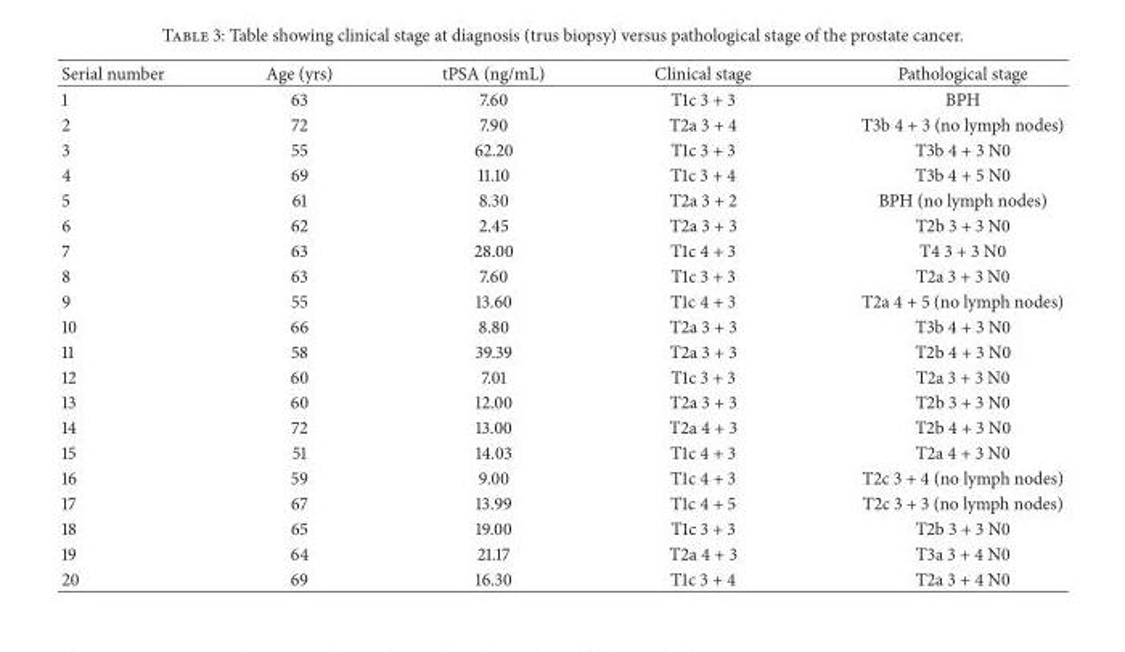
<table><thead><tr><td>Serial number</td><td>Age (yrs)</td><td>tPSA (ng/mL)</td><td>Clinical stage</td><td>Pathological stage</td></tr></thead><tbody><tr><td>1</td><td>63</td><td>7.60</td><td>T1c 3 + 3</td><td>BPH</td></tr><tr><td>2</td><td>72</td><td>7.90</td><td>T2a 3 + 4</td><td>T3b 4 + 3 (no lymph nodes)</td></tr><tr><td>3</td><td>55</td><td>62.20</td><td>T1c 3 + 3</td><td>T3b 4 + 3 N0</td></tr><tr><td>4</td><td>69</td><td>11.10</td><td>T1c 3 + 4</td><td>T3b 4 + 5 N0</td></tr><tr><td>5</td><td>61</td><td>8.30</td><td>T2a 3 + 2</td><td>BPH (no lymph nodes)</td></tr><tr><td>6</td><td>62</td><td>2.45</td><td>T2a 3 + 3</td><td>T2b 3 + 3 N0</td></tr><tr><td>7</td><td>63</td><td>28.00</td><td>T1c 4 + 3</td><td>T4 3 + 3 N0</td></tr><tr><td>8</td><td>63</td><td>7.60</td><td>T1c 3 + 3</td><td>T2a 3 + 3 N0</td></tr><tr><td>9</td><td>55</td><td>13.60</td><td>T1c 4 + 3</td><td>T2a 4 + 5 (no lymph nodes)</td></tr><tr><td>10</td><td>66</td><td>8.80</td><td>T2a 3 + 3</td><td>T3b 4 + 3 N0</td></tr><tr><td>11</td><td>58</td><td>39.39</td><td>T2a 3 + 3</td><td>T2b 4 + 3 N0</td></tr><tr><td>12</td><td>60</td><td>7.01</td><td>T1c 3 + 3</td><td>T2a 3 + 3 N0</td></tr><tr><td>13</td><td>60</td><td>12.00</td><td>T2a 3 + 3</td><td>T2b 3 + 3 N0</td></tr><tr><td>14</td><td>72</td><td>13.00</td><td>T2a 4 + 3</td><td>T2b 4 + 3 N0</td></tr><tr><td>15</td><td>51</td><td>14.03</td><td>T1c 4 + 3</td><td>T2a 4 + 3 N0</td></tr><tr><td>16</td><td>59</td><td>9.00</td><td>T1c 4 + 3</td><td>T2c 3 + 4 (no lymph nodes)</td></tr><tr><td>17</td><td>67</td><td>13.99</td><td>T1c 4 + 5</td><td>T2c 3 + 3 (no lymph nodes)</td></tr><tr><td>18</td><td>65</td><td>19.00</td><td>T1c 3 + 3</td><td>T2b 3 + 3 N0</td></tr><tr><td>19</td><td>64</td><td>21.17</td><td>T2a 4 + 3</td><td>T3a 3 + 4 N0</td></tr><tr><td>20</td><td>69</td><td>16.30</td><td>T1c 3 + 4</td><td>T2a 3 + 4 N0</td></tr></tbody></table>